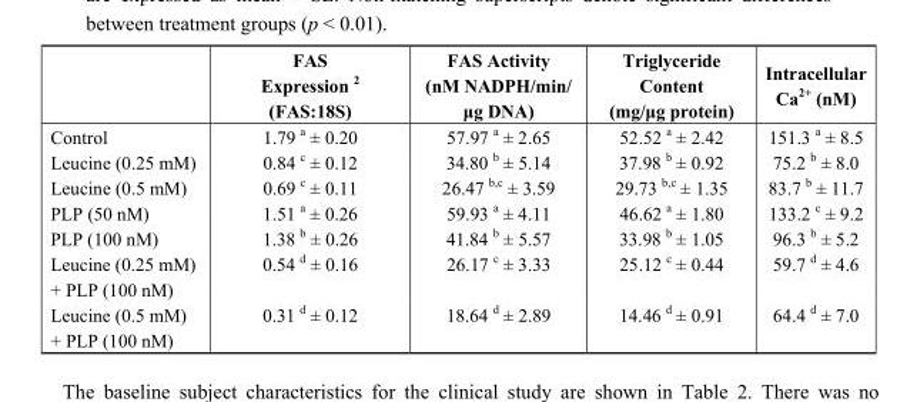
<table><thead><tr><td></td><td>FAS Expression <sup>2</sup> (FAS:18S)</td><td>FAS Activity (nM NADPH/min/ μg DNA)</td><td>Triglyceride Content (mg/μg protein)</td><td>Intracellular Ca<sup>2+</sup> (nM)</td></tr></thead><tbody><tr><td>Control</td><td>1.79 <sup>a</sup> ± 0.20</td><td>57.97 <sup>a</sup> ± 2.65</td><td>52.52 <sup>a</sup> ± 2.42</td><td>151.3 <sup>a</sup> ± 8.5</td></tr><tr><td>Leucine (0.25 mM)</td><td>0.84 <sup>c</sup> ± 0.12</td><td>34.80 <sup>b</sup> ± 5.14</td><td>37.98 <sup>b</sup> ± 0.92</td><td>75.2 <sup>b</sup> ± 8.0</td></tr><tr><td>Leucine (0.5 mM)</td><td>0.69 <sup>c</sup> ± 0.11</td><td>26.47 <sup>b,c</sup> ± 3.59</td><td>29.73 <sup>b,c</sup> ± 1.35</td><td>83.7 <sup>b</sup> ± 11.7</td></tr><tr><td>PLP (50 nM)</td><td>1.51 <sup>a</sup> ± 0.26</td><td>59.93 <sup>a</sup> ± 4.11</td><td>46.62 <sup>a</sup> ± 1.80</td><td>133.2 <sup>c</sup> ± 9.2</td></tr><tr><td>PLP (100 nM)</td><td>1.38 <sup>b</sup> ± 0.26</td><td>41.84 <sup>b</sup> ± 5.57</td><td>33.98 <sup>b</sup> ± 1.05</td><td>96.3 <sup>b</sup> ± 5.2</td></tr><tr><td>Leucine (0.25 mM) + PLP (100 nM)</td><td>0.54 <sup>d</sup> ± 0.16</td><td>26.17 <sup>c</sup> ± 3.33</td><td>25.12 <sup>c</sup> ± 0.44</td><td>59.7 <sup>d</sup> ± 4.6</td></tr><tr><td>Leucine (0.5 mM) + PLP (100 nM)</td><td>0.31 <sup>d</sup> ± 0.12</td><td>18.64 <sup>d</sup> ± 2.89</td><td>14.46 <sup>d</sup> ± 0.91</td><td>64.4 <sup>d</sup> ± 7.0</td></tr></tbody></table>